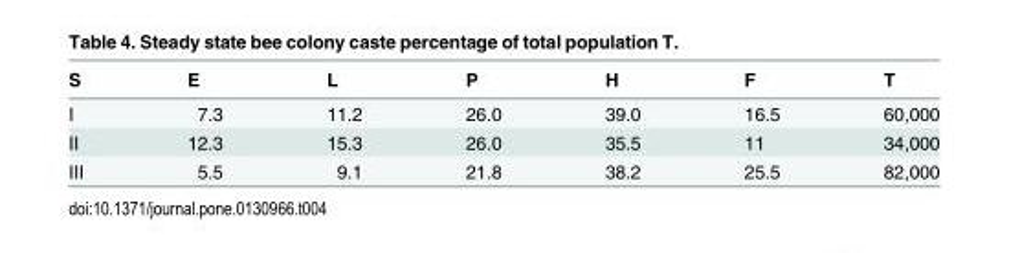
<table><thead><tr><td>S</td><td>E</td><td>L</td><td>P</td><td>H</td><td>F</td><td>T</td></tr></thead><tbody><tr><td>I</td><td>7.3</td><td>11.2</td><td>26.0</td><td>39.0</td><td>16.5</td><td>60,000</td></tr><tr><td>II</td><td>12.3</td><td>15.3</td><td>26.0</td><td>35.5</td><td>11</td><td>34,000</td></tr><tr><td>III</td><td>5.5</td><td>9.1</td><td>21.8</td><td>38.2</td><td>25.5</td><td>82,000</td></tr></tbody></table>